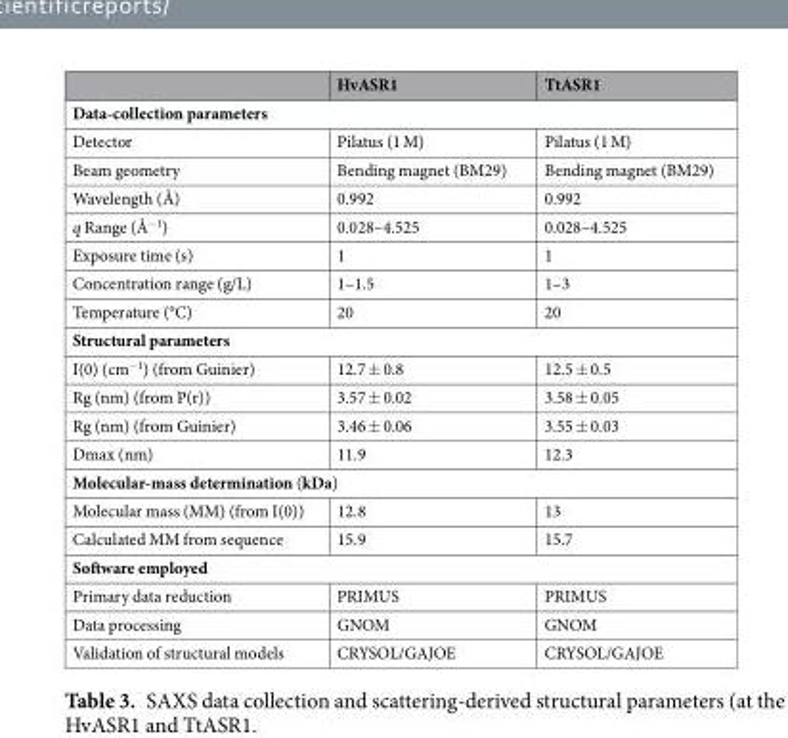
<table><thead><tr><td></td><td>HvASR1</td><td>TtASR1</td></tr></thead><tbody><tr><td colspan="3">Data-collection parameters</td></tr><tr><td>Detector</td><td>Pilatus (1 M)</td><td>Pilatus (1 M)</td></tr><tr><td>Beam geometry</td><td>Bending magnet (BM29)</td><td>Bending magnet (BM29)</td></tr><tr><td>Wavelength (Å)</td><td>0.992</td><td>0.992</td></tr><tr><td>q Range (Å<sup>−1</sup>)</td><td>0.028–4.525</td><td>0.028–4.525</td></tr><tr><td>Exposure time (s)</td><td>1</td><td>1</td></tr><tr><td>Concentration range (g/L)</td><td>1–1.5</td><td>1–3</td></tr><tr><td>Temperature (°C)</td><td>20</td><td>20</td></tr><tr><td colspan="3">Structural parameters</td></tr><tr><td>I(0) (cm<sup>−1</sup>) (from Guinier)</td><td>12.7 ± 0.8</td><td>12.5 ± 0.5</td></tr><tr><td>Rg (nm) (from P(r))</td><td>3.57 ± 0.02</td><td>3.58 ± 0.05</td></tr><tr><td>Rg (nm) (from Guinier)</td><td>3.46 ± 0.06</td><td>3.55 ± 0.03</td></tr><tr><td>Dmax (nm)</td><td>11.9</td><td>12.3</td></tr><tr><td colspan="3">Molecular-mass determination (kDa)</td></tr><tr><td>Molecular mass (MM) (from I(0))</td><td>12.8</td><td>13</td></tr><tr><td>Calculated MM from sequence</td><td>15.9</td><td>15.7</td></tr><tr><td colspan="3">Software employed</td></tr><tr><td>Primary data reduction</td><td>PRIMUS</td><td>PRIMUS</td></tr><tr><td>Data processing</td><td>GNOM</td><td>GNOM</td></tr><tr><td>Validation of structural models</td><td>CRYSOL/GAJOE</td><td>CRYSOL/GAJOE</td></tr></tbody></table>